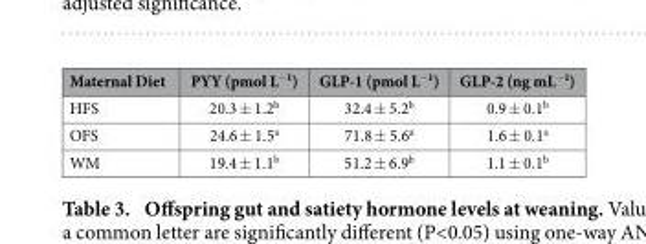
<table><thead><tr><td>Maternal Diet</td><td>PYY (pmol L<sup>−1</sup>)</td><td>GLP-1 (pmol L<sup>−1</sup>)</td><td>GLP-2 (ng mL<sup>−1</sup>)</td></tr></thead><tbody><tr><td>HFS</td><td>20.3 ± 1.2<sup>b</sup></td><td>32.4 ± 5.2<sup>b</sup></td><td>0.9 ± 0.1<sup>b</sup></td></tr><tr><td>OFS</td><td>24.6 ± 1.5<sup>a</sup></td><td>71.8 ± 5.6<sup>a</sup></td><td>1.6 ± 0.1<sup>a</sup></td></tr><tr><td>WM</td><td>19.4 ± 1.1<sup>b</sup></td><td>51.2 ± 6.9<sup>b</sup></td><td>1.1 ± 0.1<sup>b</sup></td></tr></tbody></table>